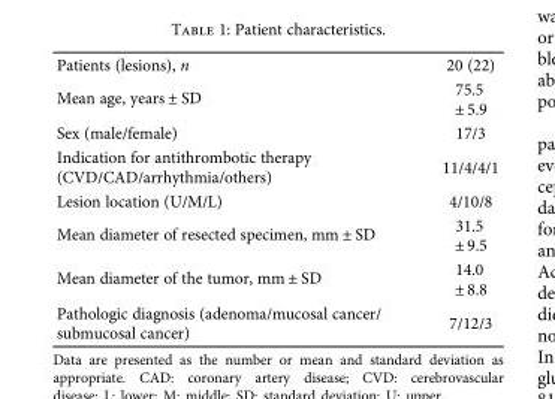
<table><tbody><tr><td>Patients (lesions), n</td><td>20 (22)</td></tr><tr><td>Mean age, years ± SD</td><td>75.5 ± 5.9</td></tr><tr><td>Sex (male/female)</td><td>17/3</td></tr><tr><td>Indication for antithrombotic therapy (CVD/CAD/arrhythmia/others)</td><td>11/4/4/1</td></tr><tr><td>Lesion location (U/M/L)</td><td>4/10/8</td></tr><tr><td>Mean diameter of resected specimen, mm ± SD</td><td>31.5 ± 9.5</td></tr><tr><td>Mean diameter of the tumor, mm ± SD</td><td>14.0 ± 8.8</td></tr><tr><td>Pathologic diagnosis (adenoma/mucosal cancer/ submucosal cancer)</td><td>7/12/3</td></tr></tbody></table>